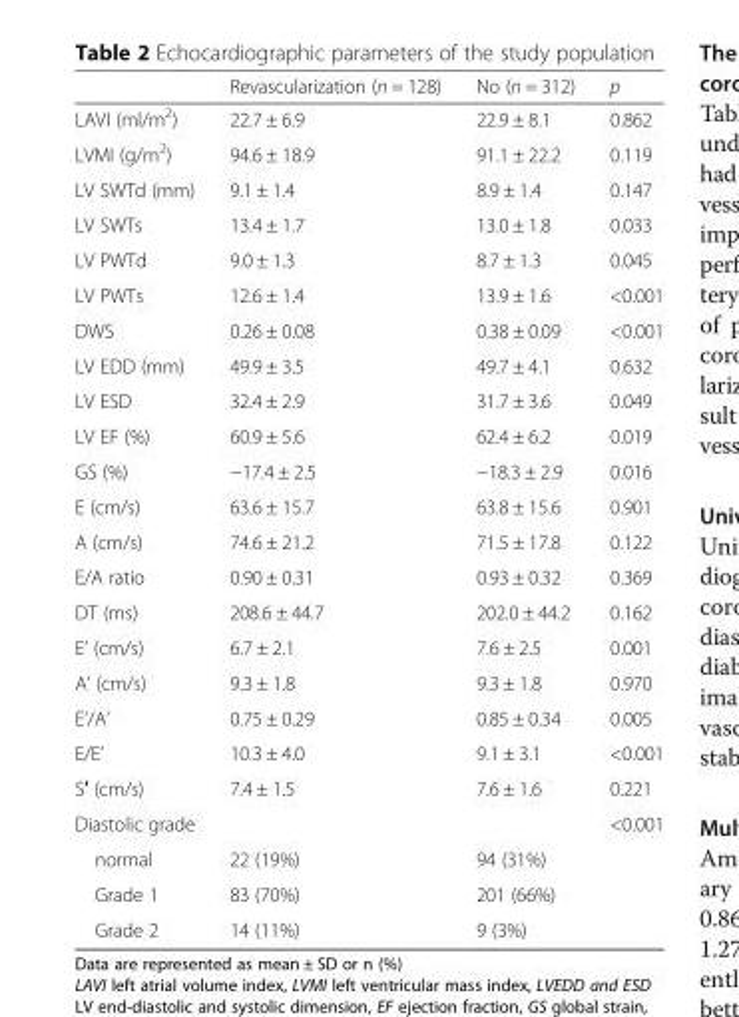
<table><thead><tr><td></td><td>Revascularization (n = 128)</td><td>No (n = 312)</td><td>p</td></tr></thead><tbody><tr><td>LAVI (ml/m<sup>2</sup>)</td><td>22.7 ± 6.9</td><td>22.9 ± 8.1</td><td>0.862</td></tr><tr><td>LVMI (g/m<sup>2</sup>)</td><td>94.6 ± 18.9</td><td>91.1 ± 22.2</td><td>0.119</td></tr><tr><td>LV SWTd (mm)</td><td>9.1 ± 1.4</td><td>8.9 ± 1.4</td><td>0.147</td></tr><tr><td>LV SWTs</td><td>13.4 ± 1.7</td><td>13.0 ± 1.8</td><td>0.033</td></tr><tr><td>LV PWTd</td><td>9.0 ± 1.3</td><td>8.7 ± 1.3</td><td>0.045</td></tr><tr><td>LV PWTs</td><td>12.6 ± 1.4</td><td>13.9 ± 1.6</td><td>&lt;0.001</td></tr><tr><td>DWS</td><td>0.26 ± 0.08</td><td>0.38 ± 0.09</td><td>&lt;0.001</td></tr><tr><td>LV EDD (mm)</td><td>49.9 ± 3.5</td><td>49.7 ± 4.1</td><td>0.632</td></tr><tr><td>LV ESD</td><td>32.4 ± 2.9</td><td>31.7 ± 3.6</td><td>0.049</td></tr><tr><td>LV EF (%)</td><td>60.9 ± 5.6</td><td>62.4 ± 6.2</td><td>0.019</td></tr><tr><td>GS (%)</td><td>−17.4 ± 2.5</td><td>−18.3 ± 2.9</td><td>0.016</td></tr><tr><td>E (cm/s)</td><td>63.6 ± 15.7</td><td>63.8 ± 15.6</td><td>0.901</td></tr><tr><td>A (cm/s)</td><td>74.6 ± 21.2</td><td>71.5 ± 17.8</td><td>0.122</td></tr><tr><td>E/A ratio</td><td>0.90 ± 0.31</td><td>0.93 ± 0.32</td><td>0.369</td></tr><tr><td>DT (ms)</td><td>208.6 ± 44.7</td><td>202.0 ± 44.2</td><td>0.162</td></tr><tr><td>E’ (cm/s)</td><td>6.7 ± 2.1</td><td>7.6 ± 2.5</td><td>0.001</td></tr><tr><td>A’ (cm/s)</td><td>9.3 ± 1.8</td><td>9.3 ± 1.8</td><td>0.970</td></tr><tr><td>E’/A’</td><td>0.75 ± 0.29</td><td>0.85 ± 0.34</td><td>0.005</td></tr><tr><td>E/E’</td><td>10.3 ± 4.0</td><td>9.1 ± 3.1</td><td>&lt;0.001</td></tr><tr><td>S′ (cm/s)</td><td>7.4 ± 1.5</td><td>7.6 ± 1.6</td><td>0.221</td></tr><tr><td>Diastolic grade</td><td></td><td></td><td>&lt;0.001</td></tr><tr><td>normal</td><td>22 (19%)</td><td>94 (31%)</td><td></td></tr><tr><td>Grade 1</td><td>83 (70%)</td><td>201 (66%)</td><td></td></tr><tr><td>Grade 2</td><td>14 (11%)</td><td>9 (3%)</td><td></td></tr></tbody></table>